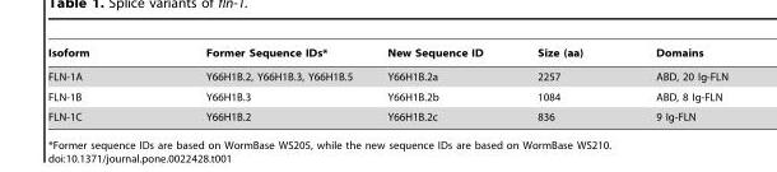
<table><thead><tr><td>Isoform</td><td>Former Sequence IDs*</td><td>New Sequence ID</td><td>Size (aa)</td><td>Domains</td></tr></thead><tbody><tr><td>FLN-1A</td><td>Y66H1B.2, Y66H1B.3, Y66H1B.5</td><td>Y66H1B.2a</td><td>2257</td><td>ABD, 20 Ig-FLN</td></tr><tr><td>FLN-1B</td><td>Y66H1B.3</td><td>Y66H1B.2b</td><td>1084</td><td>ABD, 8 Ig-FLN</td></tr><tr><td>FLN-1C</td><td>Y66H1B.2</td><td>Y66H1B.2c</td><td>836</td><td>9 Ig-FLN</td></tr></tbody></table>